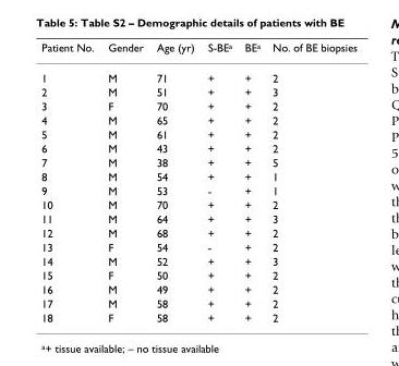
<table><thead><tr><td>Patient No.</td><td>Gender</td><td>Age (yr)</td><td>S-BE<sup>a</sup></td><td>BE<sup>a</sup></td><td>No. of BE biopsies</td></tr></thead><tbody><tr><td>1</td><td>M</td><td>71</td><td>+</td><td>+</td><td>2</td></tr><tr><td>2</td><td>M</td><td>51</td><td>+</td><td>+</td><td>3</td></tr><tr><td>3</td><td>F</td><td>70</td><td>+</td><td>+</td><td>2</td></tr><tr><td>4</td><td>M</td><td>65</td><td>+</td><td>+</td><td>2</td></tr><tr><td>5</td><td>M</td><td>61</td><td>+</td><td>+</td><td>2</td></tr><tr><td>6</td><td>M</td><td>43</td><td>+</td><td>+</td><td>2</td></tr><tr><td>7</td><td>M</td><td>38</td><td>+</td><td>+</td><td>5</td></tr><tr><td>8</td><td>M</td><td>54</td><td>+</td><td>+</td><td>1</td></tr><tr><td>9</td><td>M</td><td>53</td><td>-</td><td>+</td><td>1</td></tr><tr><td>10</td><td>M</td><td>70</td><td>+</td><td>+</td><td>2</td></tr><tr><td>11</td><td>M</td><td>64</td><td>+</td><td>+</td><td>3</td></tr><tr><td>12</td><td>M</td><td>68</td><td>+</td><td>+</td><td>2</td></tr><tr><td>13</td><td>F</td><td>54</td><td>-</td><td>+</td><td>2</td></tr><tr><td>14</td><td>M</td><td>52</td><td>+</td><td>+</td><td>3</td></tr><tr><td>15</td><td>F</td><td>50</td><td>+</td><td>+</td><td>2</td></tr><tr><td>16</td><td>M</td><td>49</td><td>+</td><td>+</td><td>2</td></tr><tr><td>17</td><td>M</td><td>58</td><td>+</td><td>+</td><td>2</td></tr><tr><td>18</td><td>F</td><td>58</td><td>+</td><td>+</td><td>2</td></tr></tbody></table>